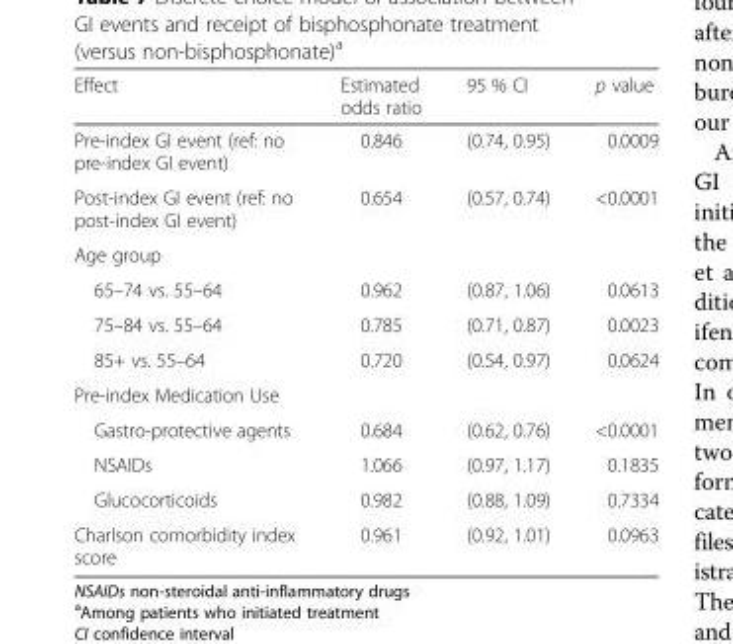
<table><thead><tr><td>Effect</td><td>Estimated odds ratio</td><td>95 % CI</td><td>p value</td></tr></thead><tbody><tr><td>Pre-index GI event (ref: no pre-index GI event)</td><td>0.846</td><td>(0.74, 0.95)</td><td>0.0009</td></tr><tr><td>Post-index GI event (ref: no post-index GI event)</td><td>0.654</td><td>(0.57, 0.74)</td><td>&lt;0.0001</td></tr><tr><td colspan="4">Age group</td></tr><tr><td>65–74 vs. 55–64</td><td>0.962</td><td>(0.87, 1.06)</td><td>0.0613</td></tr><tr><td>75–84 vs. 55–64</td><td>0.785</td><td>(0.71, 0.87)</td><td>0.0023</td></tr><tr><td>85+ vs. 55–64</td><td>0.720</td><td>(0.54, 0.97)</td><td>0.0624</td></tr><tr><td colspan="4">Pre-index Medication Use</td></tr><tr><td>Gastro-protective agents</td><td>0.684</td><td>(0.62, 0.76)</td><td>&lt;0.0001</td></tr><tr><td>NSAIDs</td><td>1.066</td><td>(0.97, 1.17)</td><td>0.1835</td></tr><tr><td>Glucocorticoids</td><td>0.982</td><td>(0.88, 1.09)</td><td>0.7334</td></tr><tr><td>Charlson comorbidity index score</td><td>0.961</td><td>(0.92, 1.01)</td><td>0.0963</td></tr></tbody></table>